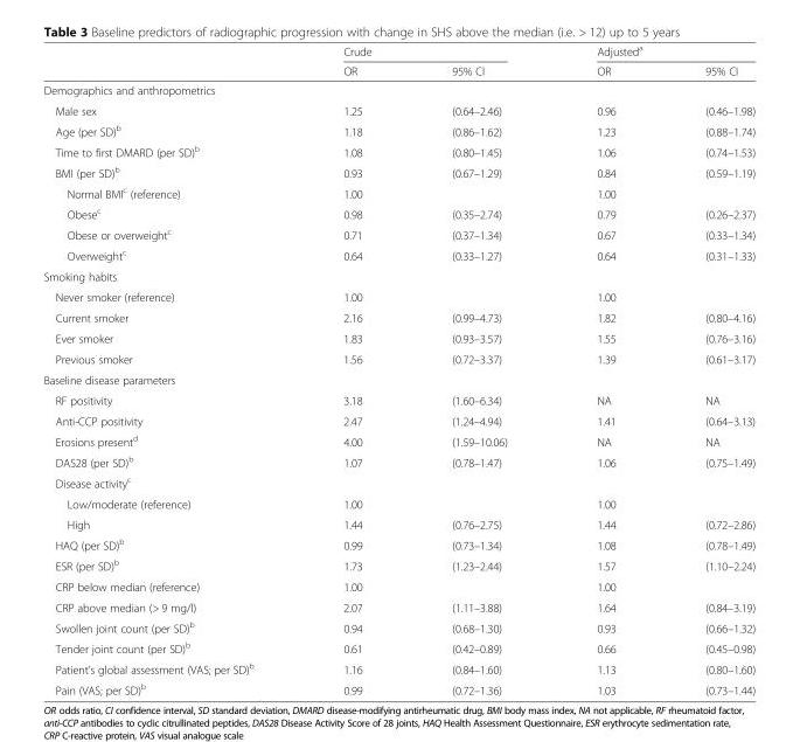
<table><thead><tr><td rowspan="2"></td><td colspan="2">Crude</td><td colspan="2">Adjusted<sup>a</sup></td></tr><tr><td>OR</td><td>95% CI</td><td>OR</td><td>95% CI</td></tr></thead><tbody><tr><td colspan="5">Demographics and anthropometrics</td></tr><tr><td>Male sex</td><td>1.25</td><td>(0.64–2.46)</td><td>0.96</td><td>(0.46–1.98)</td></tr><tr><td>Age (per SD)<sup>b</sup></td><td>1.18</td><td>(0.86–1.62)</td><td>1.23</td><td>(0.88–1.74)</td></tr><tr><td>Time to first DMARD (per SD)<sup>b</sup></td><td>1.08</td><td>(0.80–1.45)</td><td>1.06</td><td>(0.74–1.53)</td></tr><tr><td>BMI (per SD)<sup>b</sup></td><td>0.93</td><td>(0.67–1.29)</td><td>0.84</td><td>(0.59–1.19)</td></tr><tr><td>Normal BMI<sup>c</sup> (reference)</td><td>1.00</td><td></td><td>1.00</td><td></td></tr><tr><td>Obese<sup>c</sup></td><td>0.98</td><td>(0.35–2.74)</td><td>0.79</td><td>(0.26–2.37)</td></tr><tr><td>Obese or overweight<sup>c</sup></td><td>0.71</td><td>(0.37–1.34)</td><td>0.67</td><td>(0.33–1.34)</td></tr><tr><td>Overweight<sup>c</sup></td><td>0.64</td><td>(0.33–1.27)</td><td>0.64</td><td>(0.31–1.33)</td></tr><tr><td colspan="5">Smoking habits</td></tr><tr><td>Never smoker (reference)</td><td>1.00</td><td></td><td>1.00</td><td></td></tr><tr><td>Current smoker</td><td>2.16</td><td>(0.99–4.73)</td><td>1.82</td><td>(0.80–4.16)</td></tr><tr><td>Ever smoker</td><td>1.83</td><td>(0.93–3.57)</td><td>1.55</td><td>(0.76–3.16)</td></tr><tr><td>Previous smoker</td><td>1.56</td><td>(0.72–3.37)</td><td>1.39</td><td>(0.61–3.17)</td></tr><tr><td colspan="5">Baseline disease parameters</td></tr><tr><td>RF positivity</td><td>3.18</td><td>(1.60–6.34)</td><td>NA</td><td>NA</td></tr><tr><td>Anti-CCP positivity</td><td>2.47</td><td>(1.24–4.94)</td><td>1.41</td><td>(0.64–3.13)</td></tr><tr><td>Erosions present<sup>d</sup></td><td>4.00</td><td>(1.59–10.06)</td><td>NA</td><td>NA</td></tr><tr><td>DAS28 (per SD)<sup>b</sup></td><td>1.07</td><td>(0.78–1.47)</td><td>1.06</td><td>(0.75–1.49)</td></tr><tr><td colspan="5">Disease activity<sup>c</sup></td></tr><tr><td>Low/moderate (reference)</td><td>1.00</td><td></td><td>1.00</td><td></td></tr><tr><td>High</td><td>1.44</td><td>(0.76–2.75)</td><td>1.44</td><td>(0.72–2.86)</td></tr><tr><td>HAQ (per SD)<sup>b</sup></td><td>0.99</td><td>(0.73–1.34)</td><td>1.08</td><td>(0.78–1.49)</td></tr><tr><td>ESR (per SD)<sup>b</sup></td><td>1.73</td><td>(1.23–2.44)</td><td>1.57</td><td>(1.10–2.24)</td></tr><tr><td>CRP below median (reference)</td><td>1.00</td><td></td><td>1.00</td><td></td></tr><tr><td>CRP above median (&gt; 9 mg/l)</td><td>2.07</td><td>(1.11–3.88)</td><td>1.64</td><td>(0.84–3.19)</td></tr><tr><td>Swollen joint count (per SD)<sup>b</sup></td><td>0.94</td><td>(0.68–1.30)</td><td>0.93</td><td>(0.66–1.32)</td></tr><tr><td>Tender joint count (per SD)<sup>b</sup></td><td>0.61</td><td>(0.42–0.89)</td><td>0.66</td><td>(0.45–0.98)</td></tr><tr><td>Patient’s global assessment (VAS; per SD)<sup>b</sup></td><td>1.16</td><td>(0.84–1.60)</td><td>1.13</td><td>(0.80–1.60)</td></tr><tr><td>Pain (VAS; per SD)<sup>b</sup></td><td>0.99</td><td>(0.72–1.36)</td><td>1.03</td><td>(0.73–1.44)</td></tr></tbody></table>